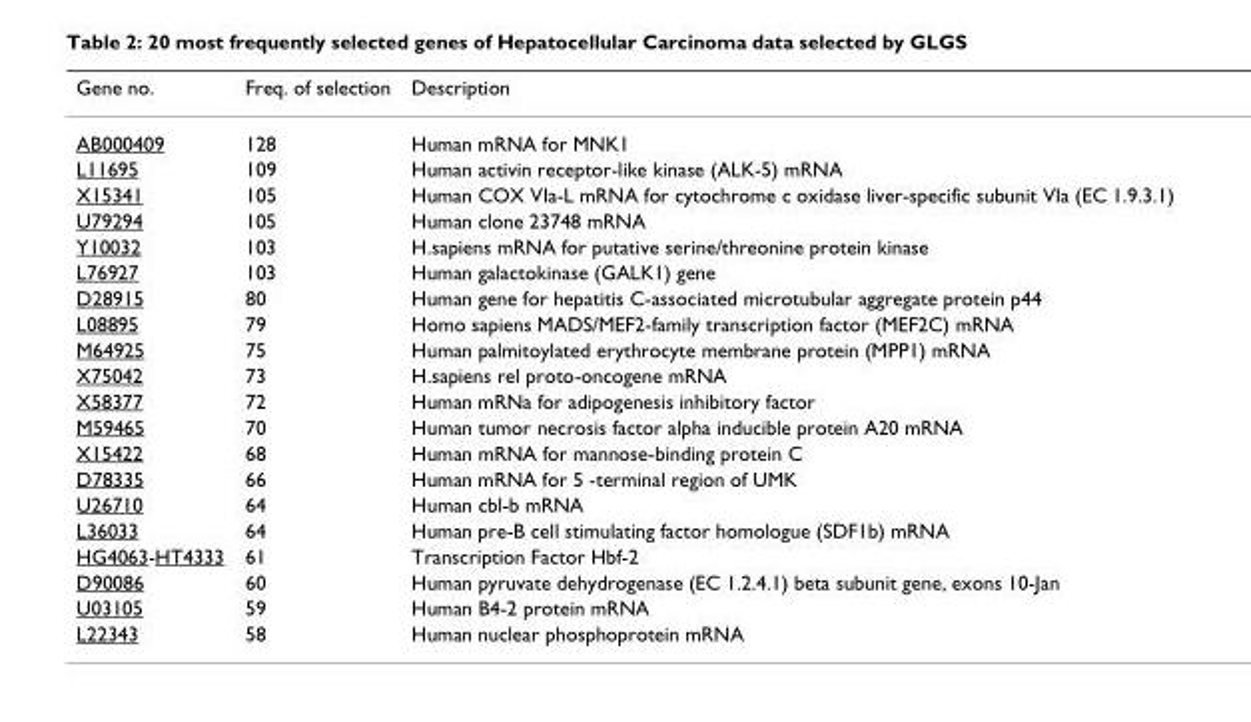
<table><thead><tr><td>Gene no.</td><td>Freq. of selection</td><td>Description</td></tr></thead><tbody><tr><td>AB000409</td><td>128</td><td>Human mRNA for MNK1</td></tr><tr><td>L11695</td><td>109</td><td>Human activin receptor-like kinase (ALK-5) mRNA</td></tr><tr><td>X15341</td><td>105</td><td>Human COX VIa-L mRNA for cytochrome c oxidase liver-specific subunit VIa (EC 1.9.3.1)</td></tr><tr><td>U79294</td><td>105</td><td>Human clone 23748 mRNA</td></tr><tr><td>Y10032</td><td>103</td><td>H.sapiens mRNA for putative serine/threonine protein kinase</td></tr><tr><td>L76927</td><td>103</td><td>Human galactokinase (GALK1) gene</td></tr><tr><td>D28915</td><td>80</td><td>Human gene for hepatitis C-associated microtubular aggregate protein p44</td></tr><tr><td>L08895</td><td>79</td><td>Homo sapiens MADS/MEF2-family transcription factor (MEF2C) mRNA</td></tr><tr><td>M64925</td><td>75</td><td>Human palmitoylated erythrocyte membrane protein (MPP1) mRNA</td></tr><tr><td>X75042</td><td>73</td><td>H.sapiens rel proto-oncogene mRNA</td></tr><tr><td>X58377</td><td>72</td><td>Human mRNa for adipogenesis inhibitory factor</td></tr><tr><td>M59465</td><td>70</td><td>Human tumor necrosis factor alpha inducible protein A20 mRNA</td></tr><tr><td>X15422</td><td>68</td><td>Human mRNA for mannose-binding protein C</td></tr><tr><td>D78335</td><td>66</td><td>Human mRNA for 5 -terminal region of UMK</td></tr><tr><td>U26710</td><td>64</td><td>Human cbl-b mRNA</td></tr><tr><td>L36033</td><td>64</td><td>Human pre-B cell stimulating factor homologue (SDF1b) mRNA</td></tr><tr><td>HG4063-HT4333</td><td>61</td><td>Transcription Factor Hbf-2</td></tr><tr><td>D90086</td><td>60</td><td>Human pyruvate dehydrogenase (EC 1.2.4.1) beta subunit gene, exons 10-Jan</td></tr><tr><td>U03105</td><td>59</td><td>Human B4-2 protein mRNA</td></tr><tr><td>L22343</td><td>58</td><td>Human nuclear phosphoprotein mRNA</td></tr></tbody></table>